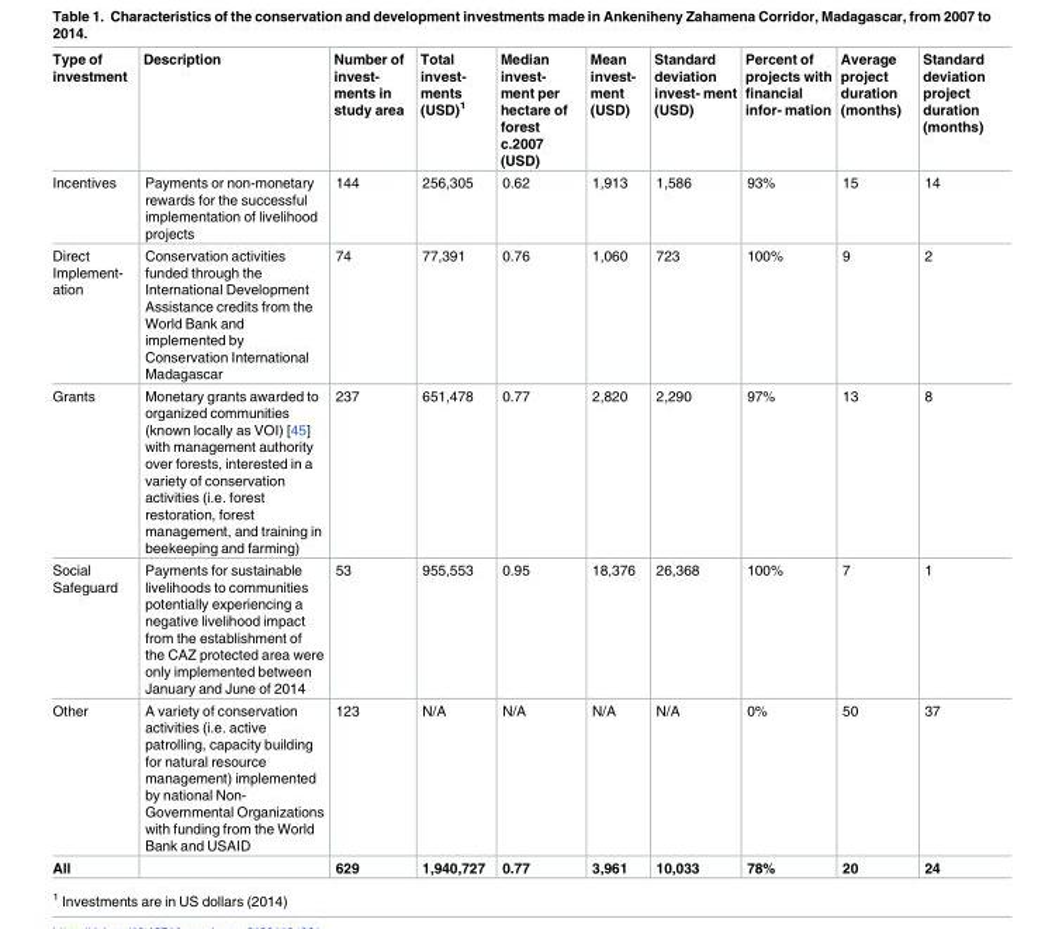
<table><thead><tr><td>Type of investment</td><td>Description</td><td>Number of invest- ments in study area</td><td>Total invest- ments (USD)<sup>1</sup></td><td>Median invest- ment per hectare of forest c.2007 (USD)</td><td>Mean invest- ment (USD)</td><td>Standard deviation invest- ment (USD)</td><td>Percent of projects with financial infor- mation</td><td>Average project duration (months)</td><td>Standard deviation project duration (months)</td></tr></thead><tbody><tr><td>Incentives</td><td>Payments or non-monetary rewards for the successful implementation of livelihood projects</td><td>144</td><td>256,305</td><td>0.62</td><td>1,913</td><td>1,586</td><td>93%</td><td>15</td><td>14</td></tr><tr><td>Direct Implement- ation</td><td>Conservation activities funded through the International Development Assistance credits from the World Bank and implemented by Conservation International Madagascar</td><td>74</td><td>77,391</td><td>0.76</td><td>1,060</td><td>723</td><td>100%</td><td>9</td><td>2</td></tr><tr><td>Grants</td><td>Monetary grants awarded to organized communities (known locally as VOI) [45] with management authority over forests, interested in a variety of conservation activities (i.e. forest restoration, forest management, and training in beekeeping and farming)</td><td>237</td><td>651,478</td><td>0.77</td><td>2,820</td><td>2,290</td><td>97%</td><td>13</td><td>8</td></tr><tr><td>Social Safeguard</td><td>Payments for sustainable livelihoods to communities potentially experiencing a negative livelihood impact from the establishment of the CAZ protected area were only implemented between January and June of 2014</td><td>53</td><td>955,553</td><td>0.95</td><td>18,376</td><td>26,368</td><td>100%</td><td>7</td><td>1</td></tr><tr><td>Other</td><td>A variety of conservation activities (i.e. active patrolling, capacity building for natural resource management) implemented by national Non- Governmental Organizations with funding from the World Bank and USAID</td><td>123</td><td>N/A</td><td>N/A</td><td>N/A</td><td>N/A</td><td>0%</td><td>50</td><td>37</td></tr><tr><td>All</td><td></td><td>629</td><td>1,940,727</td><td>0.77</td><td>3,961</td><td>10,033</td><td>78%</td><td>20</td><td>24</td></tr></tbody></table>